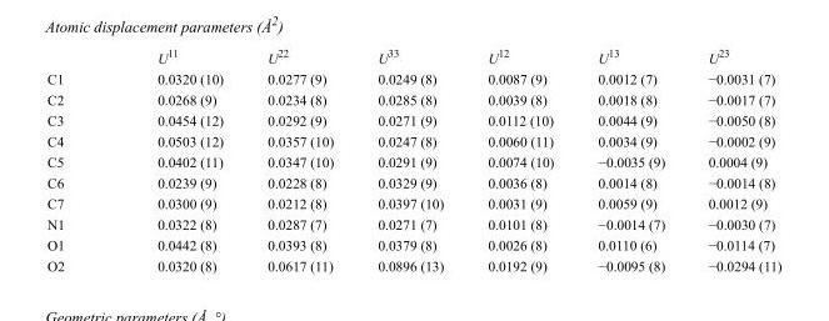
<table><thead><tr><td></td><td>U<sup>11</sup></td><td>U<sup>22</sup></td><td>U<sup>33</sup></td><td>U<sup>12</sup></td><td>U<sup>13</sup></td><td>U<sup>23</sup></td></tr></thead><tbody><tr><td>C1</td><td>0.0320 (10)</td><td>0.0277 (9)</td><td>0.0249 (8)</td><td>0.0087 (9)</td><td>0.0012 (7)</td><td>−0.0031 (7)</td></tr><tr><td>C2</td><td>0.0268 (9)</td><td>0.0234 (8)</td><td>0.0285 (8)</td><td>0.0039 (8)</td><td>0.0018 (8)</td><td>−0.0017 (7)</td></tr><tr><td>C3</td><td>0.0454 (12)</td><td>0.0292 (9)</td><td>0.0271 (9)</td><td>0.0112 (10)</td><td>0.0044 (9)</td><td>−0.0050 (8)</td></tr><tr><td>C4</td><td>0.0503 (12)</td><td>0.0357 (10)</td><td>0.0247 (8)</td><td>0.0060 (11)</td><td>0.0034 (9)</td><td>−0.0002 (9)</td></tr><tr><td>C5</td><td>0.0402 (11)</td><td>0.0347 (10)</td><td>0.0291 (9)</td><td>0.0074 (10)</td><td>−0.0035 (9)</td><td>0.0004 (9)</td></tr><tr><td>C6</td><td>0.0239 (9)</td><td>0.0228 (8)</td><td>0.0329 (9)</td><td>0.0036 (8)</td><td>0.0014 (8)</td><td>−0.0014 (8)</td></tr><tr><td>C7</td><td>0.0300 (9)</td><td>0.0212 (8)</td><td>0.0397 (10)</td><td>0.0031 (9)</td><td>0.0059 (9)</td><td>0.0012 (9)</td></tr><tr><td>N1</td><td>0.0322 (8)</td><td>0.0287 (7)</td><td>0.0271 (7)</td><td>0.0101 (8)</td><td>−0.0014 (7)</td><td>−0.0030 (7)</td></tr><tr><td>O1</td><td>0.0442 (8)</td><td>0.0393 (8)</td><td>0.0379 (8)</td><td>0.0026 (8)</td><td>0.0110 (6)</td><td>−0.0114 (7)</td></tr><tr><td>O2</td><td>0.0320 (8)</td><td>0.0617 (11)</td><td>0.0896 (13)</td><td>0.0192 (9)</td><td>−0.0095 (8)</td><td>−0.0294 (11)</td></tr></tbody></table>